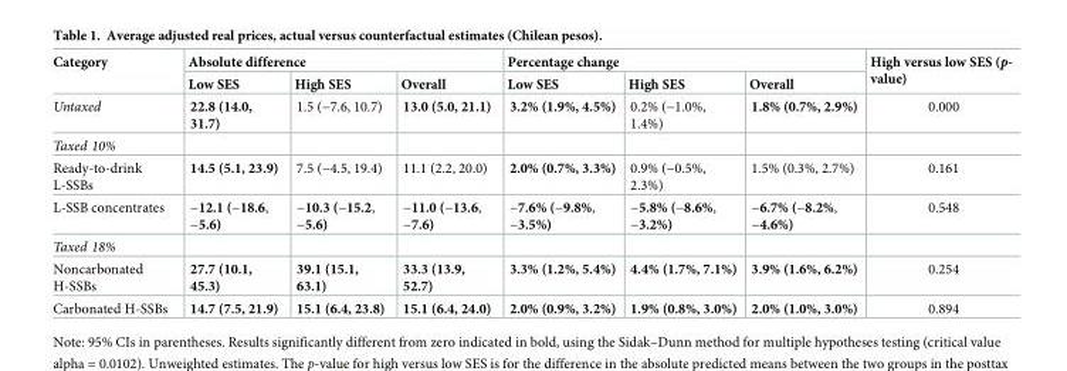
<table><thead><tr><td rowspan="2">Category</td><td colspan="3">Absolute difference</td><td colspan="3">Percentage change</td><td rowspan="2">High versus low SES (p- value)</td></tr><tr><td>Low SES</td><td>High SES</td><td>Overall</td><td>Low SES</td><td>High SES</td><td>Overall</td></tr></thead><tbody><tr><td>Untaxed</td><td>22.8 (14.0, 31.7)</td><td>1.5 (−7.6, 10.7)</td><td>13.0 (5.0, 21.1)</td><td>3.2% (1.9%, 4.5%)</td><td>0.2% (−1.0%, 1.4%)</td><td>1.8% (0.7%, 2.9%)</td><td>0.000</td></tr><tr><td colspan="8">Taxed 10%</td></tr><tr><td>Ready-to-drink L-SSBs</td><td>14.5 (5.1, 23.9)</td><td>7.5 (−4.5, 19.4)</td><td>11.1 (2.2, 20.0)</td><td>2.0% (0.7%, 3.3%)</td><td>0.9% (−0.5%, 2.3%)</td><td>1.5% (0.3%, 2.7%)</td><td>0.161</td></tr><tr><td>L-SSB concentrates</td><td>−12.1 (−18.6, −5.6)</td><td>−10.3 (−15.2, −5.6)</td><td>−11.0 (−13.6, −7.6)</td><td>−7.6% (−9.8%, −3.5%)</td><td>−5.8% (−8.6%, −3.2%)</td><td>−6.7% (−8.2%, −4.6%)</td><td>0.548</td></tr><tr><td colspan="8">Taxed 18%</td></tr><tr><td>Noncarbonated H-SSBs</td><td>27.7 (10.1, 45.3)</td><td>39.1 (15.1, 63.1)</td><td>33.3 (13.9, 52.7)</td><td>3.3% (1.2%, 5.4%)</td><td>4.4% (1.7%, 7.1%)</td><td>3.9% (1.6%, 6.2%)</td><td>0.254</td></tr><tr><td>Carbonated H-SSBs</td><td>14.7 (7.5, 21.9)</td><td>15.1 (6.4, 23.8)</td><td>15.1 (6.4, 24.0)</td><td>2.0% (0.9%, 3.2%)</td><td>1.9% (0.8%, 3.0%)</td><td>2.0% (1.0%, 3.0%)</td><td>0.894</td></tr></tbody></table>